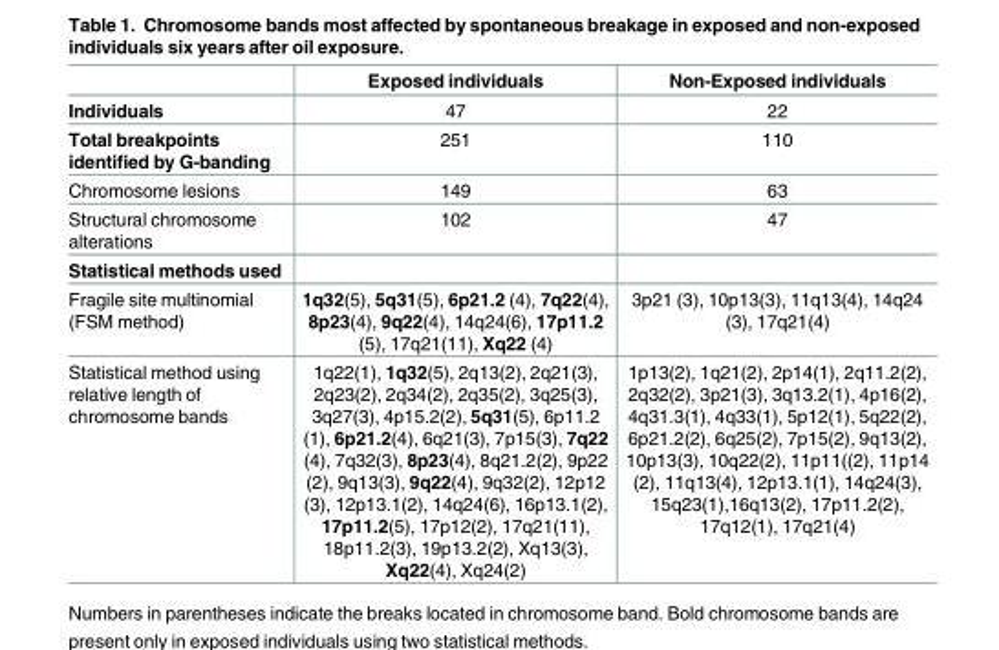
<table><thead><tr><td></td><td>Exposed individuals</td><td>Non-Exposed individuals</td></tr></thead><tbody><tr><td>Individuals</td><td>47</td><td>22</td></tr><tr><td>Total breakpoints identified by G-banding</td><td>251</td><td>110</td></tr><tr><td>Chromosome lesions</td><td>149</td><td>63</td></tr><tr><td>Structural chromosome alterations</td><td>102</td><td>47</td></tr><tr><td colspan="3">Statistical methods used</td></tr><tr><td>Fragile site multinomial (FSM method)</td><td>1q32(5), 5q31(5), 6p21.2 (4), 7q22(4), 8p23(4), 9q22(4), 14q24(6), 17p11.2 (5), 17q21(11), Xq22 (4)</td><td>3p21 (3), 10p13(3), 11q13(4), 14q24 (3), 17q21(4)</td></tr><tr><td>Statistical method using relative length of chromosome bands</td><td>1q22(1), 1q32(5), 2q13(2), 2q21(3), 2q23(2), 2q34(2), 2q35(2), 3q25(3), 3q27(3), 4p15.2(2), 5q31(5), 6p11.2 (1), 6p21.2(4), 6q21(3), 7p15(3), 7q22 (4), 7q32(3), 8p23(4), 8q21.2(2), 9p22 (2), 9q13(3), 9q22(4), 9q32(2), 12p12 (3), 12p13.1(2), 14q24(6), 16p13.1(2), 17p11.2(5), 17p12(2), 17q21(11), 18p11.2(3), 19p13.2(2), Xq13(3), Xq22(4), Xq24(2)</td><td>1p13(2), 1q21(2), 2p14(1), 2q11.2(2), 2q32(2), 3p21(3), 3q13.2(1), 4p16(2), 4q31.3(1), 4q33(1), 5p12(1), 5q22(2), 6p21.2(2), 6q25(2), 7p15(2), 9q13(2), 10p13(3), 10q22(2), 11p11((2), 11p14 (2), 11q13(4), 12p13.1(1), 14q24(3), 15q23(1),16q13(2), 17p11.2(2), 17q12(1), 17q21(4)</td></tr></tbody></table>